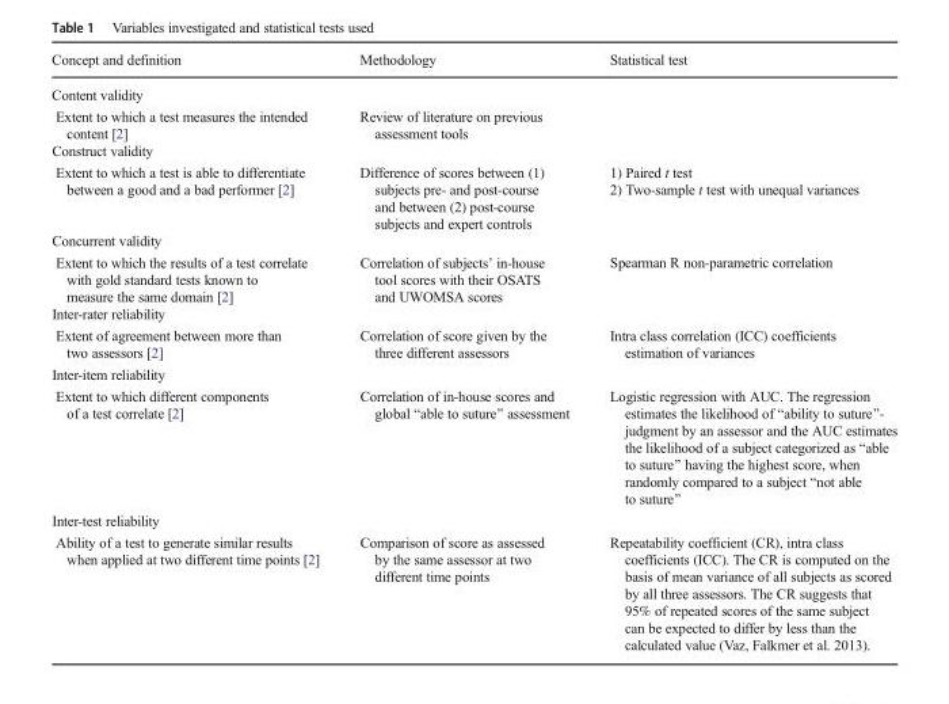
<table><thead><tr><td>Concept and definition</td><td>Methodology</td><td>Statistical test</td></tr></thead><tbody><tr><td colspan="3">Content validity</td></tr><tr><td>Extent to which a test measures the intended content [2]</td><td>Review of literature on previous assessment tools</td><td></td></tr><tr><td colspan="3">Construct validity</td></tr><tr><td>Extent to which a test is able to differentiate between a good and a bad performer [2]</td><td>Difference of scores between (1) subjects pre- and post-course and between (2) post-course subjects and expert controls</td><td>1) Paired t test 2) Two-sample t test with unequal variances</td></tr><tr><td colspan="3">Concurrent validity</td></tr><tr><td>Extent to which the results of a test correlate with gold standard tests known to measure the same domain [2]</td><td>Correlation of subjects’ in-house tool scores with their OSATS and UWOMSA scores</td><td>Spearman R non-parametric correlation</td></tr><tr><td colspan="3">Inter-rater reliability</td></tr><tr><td>Extent of agreement between more than two assessors [2]</td><td>Correlation of score given by the three different assessors</td><td>Intra class correlation (ICC) coefficients estimation of variances</td></tr><tr><td colspan="3">Inter-item reliability</td></tr><tr><td>Extent to which different components of a test correlate [2]</td><td>Correlation of in-house scores and global “able to suture” assessment</td><td>Logistic regression with AUC. The regression estimates the likelihood of “ability to suture”- judgment by an assessor and the AUC estimates the likelihood of a subject categorized as “able to suture” having the highest score, when randomly compared to a subject “not able to suture”</td></tr><tr><td colspan="3">Inter-test reliability</td></tr><tr><td>Ability of a test to generate similar results when applied at two different time points [2]</td><td>Comparison of score as assessed by the same assessor at two different time points</td><td>Repeatability coefficient (CR), intra class coefficients (ICC). The CR is computed on the basis of mean variance of all subjects as scored by all three assessors. The CR suggests that 95% of repeated scores of the same subject can be expected to differ by less than the calculated value (Vaz, Falkmer et al. 2013).</td></tr></tbody></table>